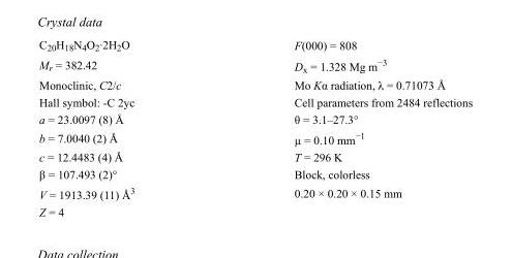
<table><tbody><tr><td>C<sub>20</sub>H<sub>18</sub>N<sub>4</sub>O<sub>2</sub>·2H<sub>2</sub>O</td><td>F(000) = 808</td></tr><tr><td>M<sub>r</sub> = 382.42</td><td>D<sub>x</sub> = 1.328 Mg m<sup>−3</sup></td></tr><tr><td>Monoclinic, C2/c</td><td>Mo Kα radiation, λ = 0.71073 Å</td></tr><tr><td>Hall symbol: -C 2yc</td><td>Cell parameters from 2484 reflections</td></tr><tr><td>a = 23.0097 (8) Å</td><td>θ = 3.1–27.3°</td></tr><tr><td>b = 7.0040 (2) Å</td><td>µ = 0.10 mm<sup>−1</sup></td></tr><tr><td>c = 12.4483 (4) Å</td><td>T = 296 K</td></tr><tr><td>β = 107.493 (2)°</td><td>Block, colorless</td></tr><tr><td>V = 1913.39 (11) Å<sup>3</sup></td><td>0.20 × 0.20 × 0.15 mm</td></tr><tr><td>Z = 4</td><td></td></tr></tbody></table>